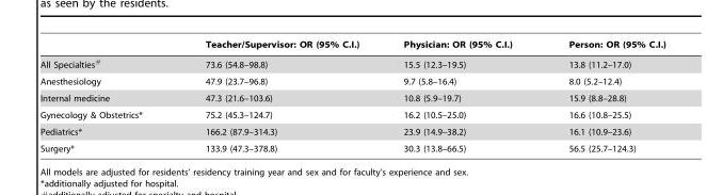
<table><thead><tr><td></td><td>Teacher/Supervisor: OR (95% C.I.)</td><td>Physician: OR (95% C.I.)</td><td>Person: OR (95% C.I.)</td></tr></thead><tbody><tr><td>All Specialties#</td><td>73.6 (54.8–98.8)</td><td>15.5 (12.3–19.5)</td><td>13.8 (11.2–17.0)</td></tr><tr><td>Anesthesiology</td><td>47.9 (23.7–96.8)</td><td>9.7 (5.8–16.4)</td><td>8.0 (5.2–12.4)</td></tr><tr><td>Internal medicine</td><td>47.3 (21.6–103.6)</td><td>10.8 (5.9–19.7)</td><td>15.9 (8.8–28.8)</td></tr><tr><td>Gynecology &amp; Obstetrics*</td><td>75.2 (45.3–124.7)</td><td>16.2 (10.5–25.0)</td><td>16.6 (10.8–25.5)</td></tr><tr><td>Pediatrics*</td><td>166.2 (87.9–314.3)</td><td>23.9 (14.9–38.2)</td><td>16.1 (10.9–23.6)</td></tr><tr><td>Surgery*</td><td>133.9 (47.3–378.8)</td><td>30.3 (13.8–66.5)</td><td>56.5 (25.7–124.3)</td></tr></tbody></table>